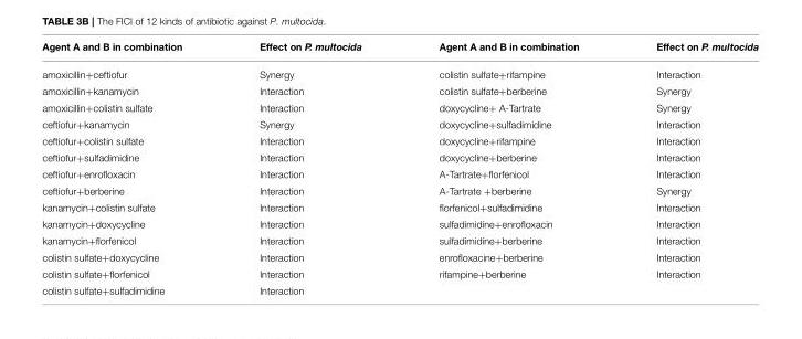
<table><thead><tr><td>Agent A and B in combination</td><td>Effect on P. multocida</td><td>Agent A and B in combination</td><td>Effect on P. multocida</td></tr></thead><tbody><tr><td>amoxicillin+ceftiofur</td><td>Synergy</td><td>colistin sulfate+rifampine</td><td>Interaction</td></tr><tr><td>amoxicillin+kanamycin</td><td>Interaction</td><td>colistin sulfate+berberine</td><td>Synergy</td></tr><tr><td>amoxicillin+colistin sulfate</td><td>Interaction</td><td>doxycycline+ A-Tartrate</td><td>Synergy</td></tr><tr><td>ceftiofur+kanamycin</td><td>Synergy</td><td>doxycycline+sulfadimidine</td><td>Interaction</td></tr><tr><td>ceftiofur+colistin sulfate</td><td>Interaction</td><td>doxycycline+rifampine</td><td>Interaction</td></tr><tr><td>ceftiofur+sulfadimidine</td><td>Interaction</td><td>doxycycline+berberine</td><td>Interaction</td></tr><tr><td>ceftiofur+enrofloxacin</td><td>Interaction</td><td>A-Tartrate+florfenicol</td><td>Interaction</td></tr><tr><td>ceftiofur+berberine</td><td>Interaction</td><td>A-Tartrate +berberine</td><td>Synergy</td></tr><tr><td>kanamycin+colistin sulfate</td><td>Interaction</td><td>florfenicol+sulfadimidine</td><td>Interaction</td></tr><tr><td>kanamycin+doxycycline</td><td>Interaction</td><td>sulfadimidine+enrofloxacin</td><td>Interaction</td></tr><tr><td>kanamycin+florfenicol</td><td>Interaction</td><td>sulfadimidine+berberine</td><td>Interaction</td></tr><tr><td>colistin sulfate+doxycycline</td><td>Interaction</td><td>enrofloxacine+berberine</td><td>Interaction</td></tr><tr><td>colistin sulfate+florfenicol</td><td>Interaction</td><td>rifampine+berberine</td><td>Interaction</td></tr><tr><td>colistin sulfate+sulfadimidine</td><td>Interaction</td><td></td><td></td></tr></tbody></table>